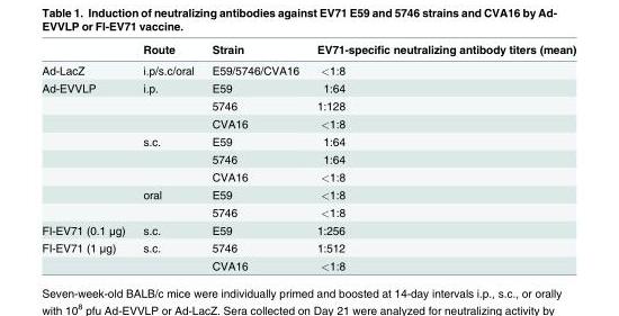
<table><thead><tr><td></td><td>Route</td><td>Strain</td><td>EV71-specific neutralizing antibody titers (mean)</td></tr></thead><tbody><tr><td>Ad-LacZ</td><td>i.p/s.c/oral</td><td>E59/5746/CVA16</td><td>&lt;1:8</td></tr><tr><td rowspan="8">Ad-EVVLP</td><td>i.p.</td><td>E59</td><td>1:64</td></tr><tr><td></td><td>5746</td><td>1:128</td></tr><tr><td></td><td>CVA16</td><td>&lt;1:8</td></tr><tr><td>s.c.</td><td>E59</td><td>1:64</td></tr><tr><td></td><td>5746</td><td>1:64</td></tr><tr><td></td><td>CVA16</td><td>&lt;1:8</td></tr><tr><td>oral</td><td>E59</td><td>&lt;1:8</td></tr><tr><td></td><td>5746</td><td>&lt;1:8</td></tr><tr><td>FI-EV71 (0.1 μg)</td><td>s.c.</td><td>E59</td><td>1:256</td></tr><tr><td rowspan="2">FI-EV71 (1 μg)</td><td>s.c.</td><td>5746</td><td>1:512</td></tr><tr><td></td><td>CVA16</td><td>&lt;1:8</td></tr></tbody></table>